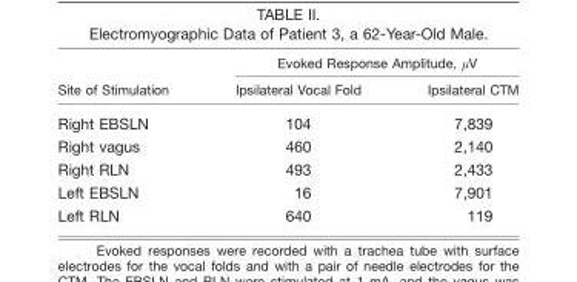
<table><thead><tr><td rowspan="2">Site of Stimulation</td><td colspan="2">Evoked Response Amplitude, μV</td></tr><tr><td>Ipsilateral Vocal Fold</td><td>Ipsilateral CTM</td></tr></thead><tbody><tr><td>Right EBSLN</td><td>104</td><td>7,839</td></tr><tr><td>Right vagus</td><td>460</td><td>2,140</td></tr><tr><td>Right RLN</td><td>493</td><td>2,433</td></tr><tr><td>Left EBSLN</td><td>16</td><td>7,901</td></tr><tr><td>Left RLN</td><td>640</td><td>119</td></tr></tbody></table>